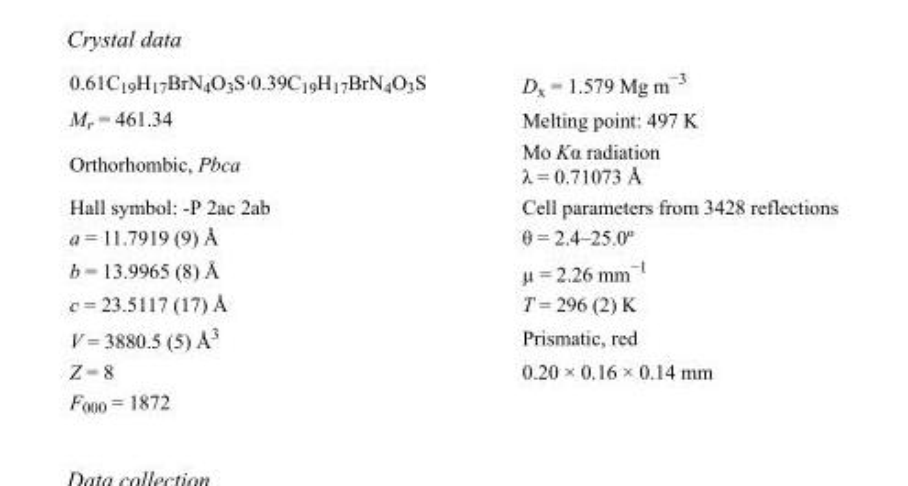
<table><tbody><tr><td>0.61C<sub>19</sub>H<sub>17</sub>BrN<sub>4</sub>O<sub>3</sub>S·0.39C<sub>19</sub>H<sub>17</sub>BrN<sub>4</sub>O<sub>3</sub>S</td><td>D<sub>x</sub> = 1.579 Mg m<sup>−3</sup></td></tr><tr><td>M<sub>r</sub> = 461.34</td><td>Melting point: 497 K</td></tr><tr><td>Orthorhombic, Pbca</td><td>Mo Kα radiation λ = 0.71073 Å</td></tr><tr><td>Hall symbol: -P 2ac 2ab</td><td>Cell parameters from 3428 reflections</td></tr><tr><td>a = 11.7919 (9) Å</td><td>θ = 2.4–25.0º</td></tr><tr><td>b = 13.9965 (8) Å</td><td>µ = 2.26 mm<sup>−1</sup></td></tr><tr><td>c = 23.5117 (17) Å</td><td>T = 296 (2) K</td></tr><tr><td>V = 3880.5 (5) Å<sup>3</sup></td><td>Prismatic, red</td></tr><tr><td>Z = 8</td><td>0.20 × 0.16 × 0.14 mm</td></tr><tr><td>F000 = 1872</td><td></td></tr></tbody></table>